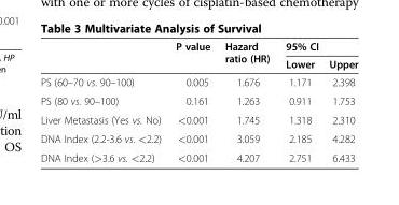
<table><thead><tr><td rowspan="2"></td><td rowspan="2">P value</td><td rowspan="2">Hazard ratio (HR)</td><td colspan="2">95% CI</td></tr><tr><td>Lower</td><td>Upper</td></tr></thead><tbody><tr><td>PS (60–70 vs. 90–100)</td><td>0.005</td><td>1.676</td><td>1.171</td><td>2.398</td></tr><tr><td>PS (80 vs. 90–100)</td><td>0.161</td><td>1.263</td><td>0.911</td><td>1.753</td></tr><tr><td>Liver Metastasis (Yes vs. No)</td><td>&lt;0.001</td><td>1.745</td><td>1.318</td><td>2.310</td></tr><tr><td>DNA Index (2.2-3.6 vs. &lt;2.2)</td><td>&lt;0.001</td><td>3.059</td><td>2.185</td><td>4.282</td></tr><tr><td>DNA Index (&gt;3.6 vs. &lt;2.2)</td><td>&lt;0.001</td><td>4.207</td><td>2.751</td><td>6.433</td></tr></tbody></table>